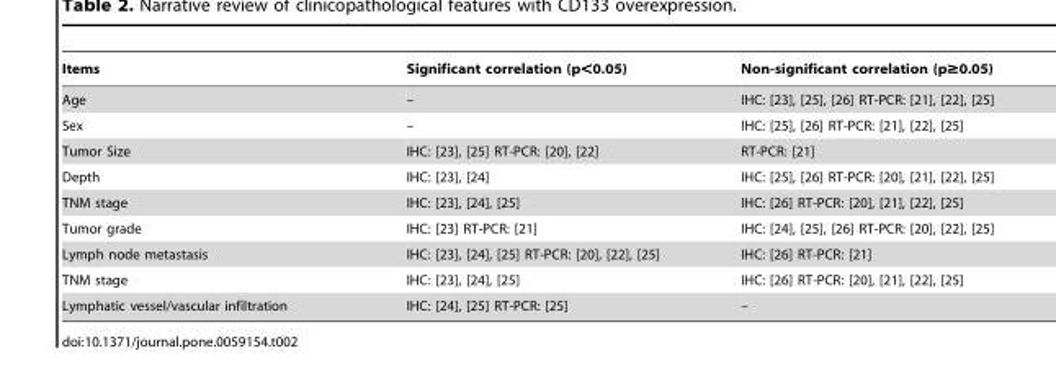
<table><thead><tr><td>Items</td><td>Significant correlation (p&lt;0.05)</td><td>Non-significant correlation (p≥0.05)</td></tr></thead><tbody><tr><td>Age</td><td>–</td><td>IHC: [23], [25], [26] RT-PCR: [21], [22], [25]</td></tr><tr><td>Sex</td><td>–</td><td>IHC: [25], [26] RT-PCR: [21], [22], [25]</td></tr><tr><td>Tumor Size</td><td>IHC: [23], [25] RT-PCR: [20], [22]</td><td>RT-PCR: [21]</td></tr><tr><td>Depth</td><td>IHC: [23], [24]</td><td>IHC: [25], [26] RT-PCR: [20], [21], [22], [25]</td></tr><tr><td>TNM stage</td><td>IHC: [23], [24], [25]</td><td>IHC: [26] RT-PCR: [20], [21], [22], [25]</td></tr><tr><td>Tumor grade</td><td>IHC: [23] RT-PCR: [21]</td><td>IHC: [24], [25], [26] RT-PCR: [20], [22], [25]</td></tr><tr><td>Lymph node metastasis</td><td>IHC: [23], [24], [25] RT-PCR: [20], [22], [25]</td><td>IHC: [26] RT-PCR: [21]</td></tr><tr><td>TNM stage</td><td>IHC: [23], [24], [25]</td><td>IHC: [26] RT-PCR: [20], [21], [22], [25]</td></tr><tr><td>Lymphatic vessel/vascular infiltration</td><td>IHC: [24], [25] RT-PCR: [25]</td><td>–</td></tr></tbody></table>